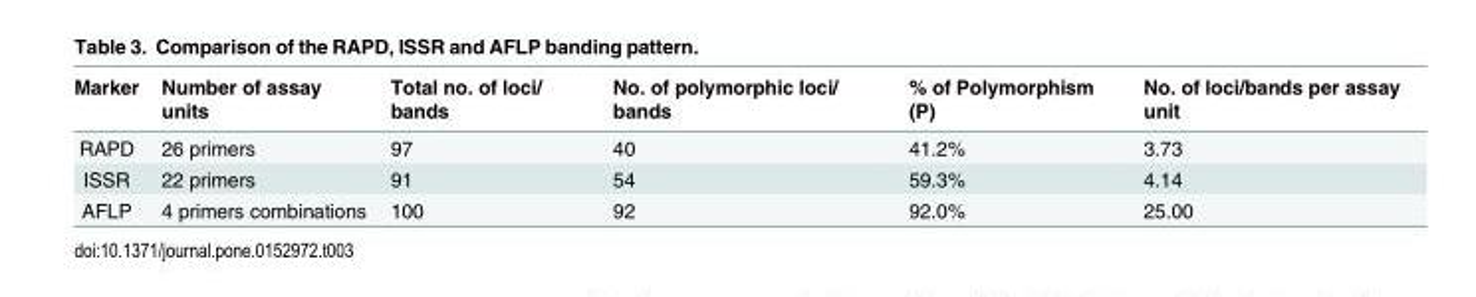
<table><thead><tr><td>Marker</td><td>Number of assay units</td><td>Total no. of loci/ bands</td><td>No. of polymorphic loci/ bands</td><td>% of Polymorphism (P)</td><td>No. of loci/bands per assay unit</td></tr></thead><tbody><tr><td>RAPD</td><td>26 primers</td><td>97</td><td>40</td><td>41.2%</td><td>3.73</td></tr><tr><td>ISSR</td><td>22 primers</td><td>91</td><td>54</td><td>59.3%</td><td>4.14</td></tr><tr><td>AFLP</td><td>4 primers combinations</td><td>100</td><td>92</td><td>92.0%</td><td>25.00</td></tr></tbody></table>